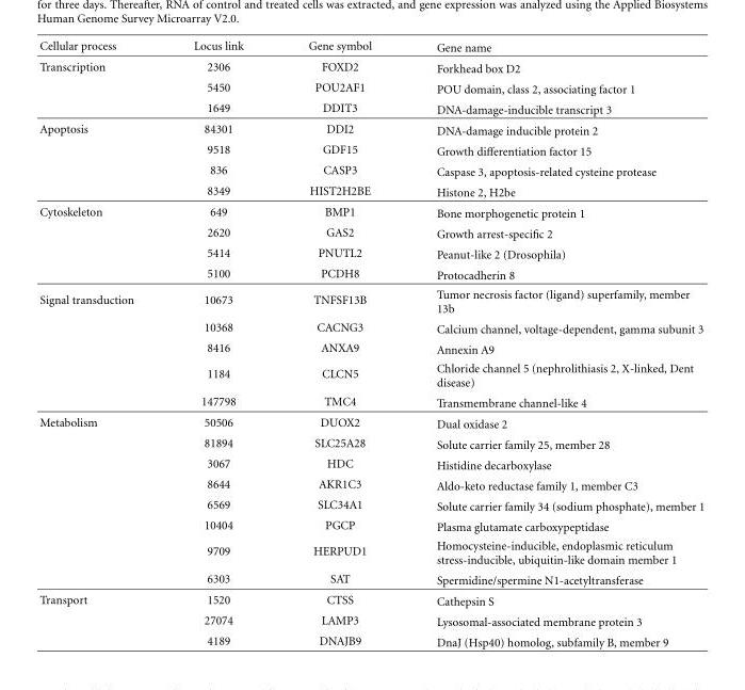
<table><thead><tr><td>Cellular process</td><td>Locus link</td><td>Gene symbol</td><td>Gene name</td></tr></thead><tbody><tr><td rowspan="3">Transcription</td><td>2306</td><td>FOXD2</td><td>Forkhead box D2</td></tr><tr><td>5450</td><td>POU2AF1</td><td>POU domain, class 2, associating factor 1</td></tr><tr><td>1649</td><td>DDIT3</td><td>DNA-damage-inducible transcript 3</td></tr><tr><td rowspan="4">Apoptosis</td><td>84301</td><td>DDI2</td><td>DNA-damage inducible protein 2</td></tr><tr><td>9518</td><td>GDF15</td><td>Growth differentiation factor 15</td></tr><tr><td>836</td><td>CASP3</td><td>Caspase 3, apoptosis-related cysteine protease</td></tr><tr><td>8349</td><td>HIST2H2BE</td><td>Histone 2, H2be</td></tr><tr><td rowspan="4">Cytoskeleton</td><td>649</td><td>BMP1</td><td>Bone morphogenetic protein 1</td></tr><tr><td>2620</td><td>GAS2</td><td>Growth arrest-specific 2</td></tr><tr><td>5414</td><td>PNUTL2</td><td>Peanut-like 2 (Drosophila)</td></tr><tr><td>5100</td><td>PCDH8</td><td>Protocadherin 8</td></tr><tr><td rowspan="5">Signal transduction</td><td>10673</td><td>TNFSF13B</td><td>Tumor necrosis factor (ligand) superfamily, member 13b</td></tr><tr><td>10368</td><td>CACNG3</td><td>Calcium channel, voltage-dependent, gamma subunit 3</td></tr><tr><td>8416</td><td>ANXA9</td><td>Annexin A9</td></tr><tr><td>1184</td><td>CLCN5</td><td>Chloride channel 5 (nephrolithiasis 2, X-linked, Dent disease)</td></tr><tr><td>147798</td><td>TMC4</td><td>Transmembrane channel-like 4</td></tr><tr><td rowspan="8">Metabolism</td><td>50506</td><td>DUOX2</td><td>Dual oxidase 2</td></tr><tr><td>81894</td><td>SLC25A28</td><td>Solute carrier family 25, member 28</td></tr><tr><td>3067</td><td>HDC</td><td>Histidine decarboxylase</td></tr><tr><td>8644</td><td>AKR1C3</td><td>Aldo-keto reductase family 1, member C3</td></tr><tr><td>6569</td><td>SLC34A1</td><td>Solute carrier family 34 (sodium phosphate), member 1</td></tr><tr><td>10404</td><td>PGCP</td><td>Plasma glutamate carboxypeptidase</td></tr><tr><td>9709</td><td>HERPUD1</td><td>Homocysteine-inducible, endoplasmic reticulum stress-inducible, ubiquitin-like domain member 1</td></tr><tr><td>6303</td><td>SAT</td><td>Spermidine/spermine N1-acetyltransferase</td></tr><tr><td rowspan="3">Transport</td><td>1520</td><td>CTSS</td><td>Cathepsin S</td></tr><tr><td>27074</td><td>LAMP3</td><td>Lysosomal-associated membrane protein 3</td></tr><tr><td>4189</td><td>DNAJB9</td><td>DnaJ (Hsp40) homolog, subfamily B, member 9</td></tr></tbody></table>